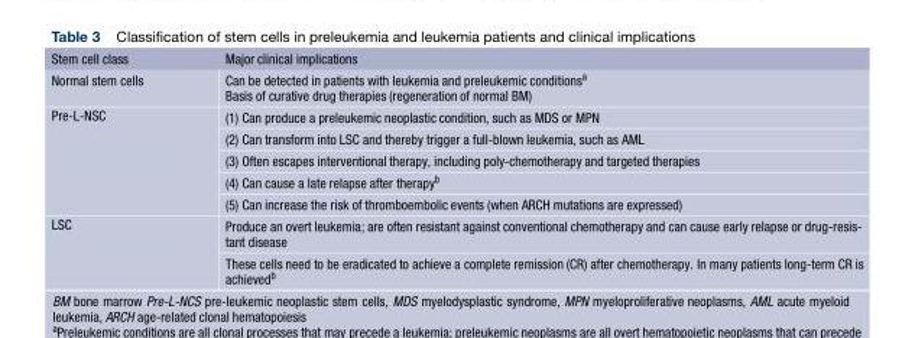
<table><thead><tr><td>Stem cell class</td><td>Major clinical implications</td></tr></thead><tbody><tr><td>Normal stem cells</td><td>Can be detected in patients with leukemia and preleukemic conditions<sup>a</sup> Basis of curative drug therapies (regeneration of normal BM)</td></tr><tr><td rowspan="5">Pre-L-NSC</td><td>(1) Can produce a preleukemic neoplastic condition, such as MDS or MPN</td></tr><tr><td>(2) Can transform into LSC and thereby trigger a full-blown leukemia, such as AML</td></tr><tr><td>(3) Often escapes interventional therapy, including poly-chemotherapy and targeted therapies</td></tr><tr><td>(4) Can cause a late relapse after therapy<sup>b</sup></td></tr><tr><td>(5) Can increase the risk of thromboembolic events (when ARCH mutations are expressed)</td></tr><tr><td rowspan="2">LSC</td><td>Produce an overt leukemia; are often resistant against conventional chemotherapy and can cause early relapse or drug-resis- tant disease</td></tr><tr><td>These cells need to be eradicated to achieve a complete remission (CR) after chemotherapy. In many patients long-term CR is achieved<sup>b</sup></td></tr></tbody></table>